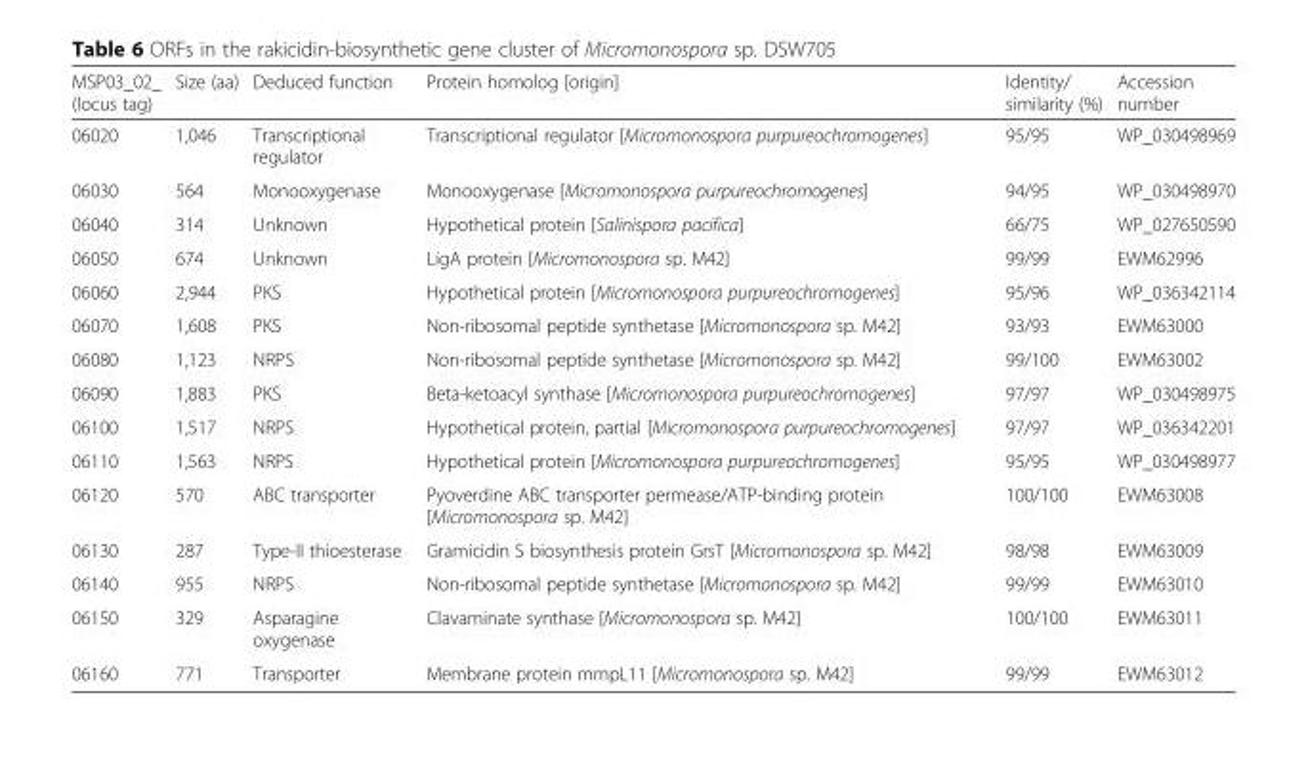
<table><thead><tr><td>MSP03_02_ (locus tag)</td><td>Size (aa)</td><td>Deduced function</td><td>Protein homolog [origin]</td><td>Identity/ similarity (%)</td><td>Accession number</td></tr></thead><tbody><tr><td>06020</td><td>1,046</td><td>Transcriptional regulator</td><td>Transcriptional regulator [Micromonospora purpureochromogenes]</td><td>95/95</td><td>WP_030498969</td></tr><tr><td>06030</td><td>564</td><td>Monooxygenase</td><td>Monooxygenase [Micromonospora purpureochromogenes]</td><td>94/95</td><td>WP_030498970</td></tr><tr><td>06040</td><td>314</td><td>Unknown</td><td>Hypothetical protein [Salinispora pacifica]</td><td>66/75</td><td>WP_027650590</td></tr><tr><td>06050</td><td>674</td><td>Unknown</td><td>LigA protein [Micromonospora sp. M42]</td><td>99/99</td><td>EWM62996</td></tr><tr><td>06060</td><td>2,944</td><td>PKS</td><td>Hypothetical protein [Micromonospora purpureochromogenes]</td><td>95/96</td><td>WP_036342114</td></tr><tr><td>06070</td><td>1,608</td><td>PKS</td><td>Non-ribosomal peptide synthetase [Micromonospora sp. M42]</td><td>93/93</td><td>EWM63000</td></tr><tr><td>06080</td><td>1,123</td><td>NRPS</td><td>Non-ribosomal peptide synthetase [Micromonospora sp. M42]</td><td>99/100</td><td>EWM63002</td></tr><tr><td>06090</td><td>1,883</td><td>PKS</td><td>Beta-ketoacyl synthase [Micromonospora purpureochromogenes]</td><td>97/97</td><td>WP_030498975</td></tr><tr><td>06100</td><td>1,517</td><td>NRPS</td><td>Hypothetical protein, partial [Micromonospora purpureochromogenes]</td><td>97/97</td><td>WP_036342201</td></tr><tr><td>06110</td><td>1,563</td><td>NRPS</td><td>Hypothetical protein [Micromonospora purpureochromogenes]</td><td>95/95</td><td>WP_030498977</td></tr><tr><td>06120</td><td>570</td><td>ABC transporter</td><td>Pyoverdine ABC transporter permease/ATP-binding protein [Micromonospora sp. M42]</td><td>100/100</td><td>EWM63008</td></tr><tr><td>06130</td><td>287</td><td>Type-II thioesterase</td><td>Gramicidin S biosynthesis protein GrsT [Micromonospora sp. M42]</td><td>98/98</td><td>EWM63009</td></tr><tr><td>06140</td><td>955</td><td>NRPS</td><td>Non-ribosomal peptide synthetase [Micromonospora sp. M42]</td><td>99/99</td><td>EWM63010</td></tr><tr><td>06150</td><td>329</td><td>Asparagine oxygenase</td><td>Clavaminate synthase [Micromonospora sp. M42]</td><td>100/100</td><td>EWM63011</td></tr><tr><td>06160</td><td>771</td><td>Transporter</td><td>Membrane protein mmpL11 [Micromonospora sp. M42]</td><td>99/99</td><td>EWM63012</td></tr></tbody></table>